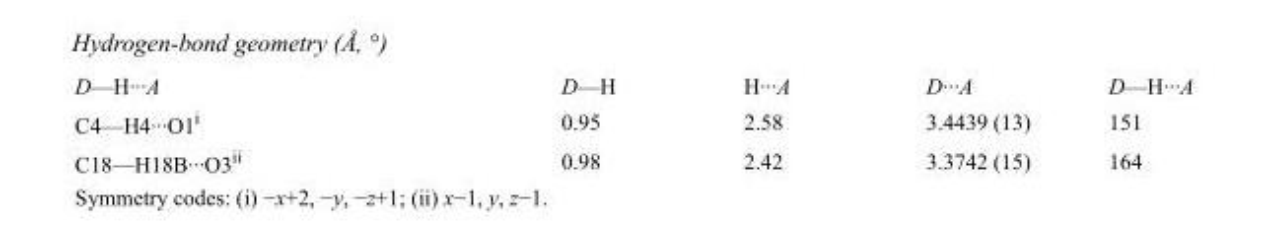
<table><tbody><tr><td>D—H···A</td><td>D—H</td><td>H···A</td><td>D···A</td><td>D—H···A</td></tr><tr><td>C4—H4···O1<sup>i</sup></td><td>0.95</td><td>2.58</td><td>3.4439 (13)</td><td>151</td></tr><tr><td>C18—H18B···O3<sup>ii</sup></td><td>0.98</td><td>2.42</td><td>3.3742 (15)</td><td>164</td></tr></tbody></table>